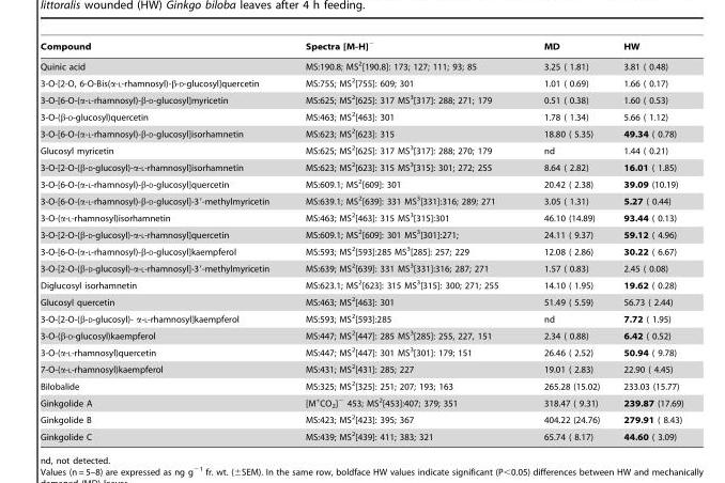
<table><thead><tr><td>Compound</td><td>Spectra [M-H]<sup>−</sup></td><td>MD</td><td>HW</td></tr></thead><tbody><tr><td>Quinic acid</td><td>MS:190.8; MS<sup>2</sup>[190.8]: 173; 127; 111; 93; 85</td><td>3.25 ( 1.81)</td><td>3.81 ( 0.48)</td></tr><tr><td>3-O-[2-O, 6-O-Bis(α-L-rhamnosyl)-β-D-glucosyl]quercetin</td><td>MS:755; MS<sup>2</sup>[755]: 609; 301</td><td>1.01 ( 0.69)</td><td>1.66 ( 0.17)</td></tr><tr><td>3-O-[6-O-(α-L-rhamnosyl)-β-D-glucosyl]myricetin</td><td>MS:625; MS<sup>2</sup>[625]: 317 MS<sup>3</sup>[317]: 288; 271; 179</td><td>0.51 ( 0.38)</td><td>1.60 ( 0.53)</td></tr><tr><td>3-O-(β-D-glucosyl)quercetin</td><td>MS:463; MS<sup>2</sup>[463]: 301</td><td>1.78 ( 1.34)</td><td>5.66 ( 1.12)</td></tr><tr><td>3-O-[6-O-(α-L-rhamnosyl)-β-D-glucosyl]isorhamnetin</td><td>MS:623; MS<sup>2</sup>[623]: 315</td><td>18.80 ( 5.35)</td><td>49.34 ( 0.78)</td></tr><tr><td>Glucosyl myricetin</td><td>MS:625; MS<sup>2</sup>[625]: 317 MS<sup>3</sup>[317]: 288; 270; 179</td><td>nd</td><td>1.44 ( 0.21)</td></tr><tr><td>3-O-[2-O-(β-D-glucosyl)-α-L-rhamnosyl]isorhamnetin</td><td>MS:623; MS<sup>2</sup>[623]: 315 MS<sup>3</sup>[315]: 301; 272; 255</td><td>8.64 ( 2.82)</td><td>16.01 ( 1.85)</td></tr><tr><td>3-O-[6-O-(α-L-rhamnosyl)-β-D-glucosyl]quercetin</td><td>MS:609.1; MS<sup>2</sup>[609]: 301</td><td>20.42 ( 2.38)</td><td>39.09 (10.19)</td></tr><tr><td>3-O-[6-O-(α-L-rhamnosyl)-β-D-glucosyl]-3′-methylmyricetin</td><td>MS:639.1; MS<sup>2</sup>[639]: 331 MS<sup>3</sup>[331]:316; 289; 271</td><td>3.05 ( 1.31)</td><td>5.27 ( 0.44)</td></tr><tr><td>3-O-(α-L-rhamnosyl)isorhamnetin</td><td>MS:463; MS<sup>2</sup>[463]: 315 MS<sup>3</sup>[315]:301</td><td>46.10 (14.89)</td><td>93.44 ( 0.13)</td></tr><tr><td>3-O-[2-O-(β-D-glucosyl)-α-L-rhamnosyl]quercetin</td><td>MS:609.1; MS<sup>2</sup>[609]: 301 MS<sup>3</sup>[301]:271;</td><td>24.11 ( 9.37)</td><td>59.12 ( 4.96)</td></tr><tr><td>3-O-[6-O-(α-L-rhamnosyl)-β-D-glucosyl]kaempferol</td><td>MS:593; MS<sup>2</sup>[593]:285 MS<sup>3</sup>[285]: 257; 229</td><td>12.08 ( 2.86)</td><td>30.22 ( 6.67)</td></tr><tr><td>3-O-[2-O-(β-D-glucosyl)-α-L-rhamnosyl]-3′-methylmyricetin</td><td>MS:639; MS<sup>2</sup>[639]: 331 MS<sup>3</sup>[331]:316; 287; 271</td><td>1.57 ( 0.83)</td><td>2.45 ( 0.08)</td></tr><tr><td>Diglucosyl isorhamnetin</td><td>MS:623.1; MS<sup>2</sup>[623]: 315 MS<sup>3</sup>[315]: 300; 271; 255</td><td>14.10 ( 1.95)</td><td>19.62 ( 0.28)</td></tr><tr><td>Glucosyl quercetin</td><td>MS:463; MS<sup>2</sup>[463]: 301</td><td>51.49 ( 5.59)</td><td>56.73 ( 2.44)</td></tr><tr><td>3-O-[2-O-(β-D-glucosyl)- α-L-rhamnosyl]kaempferol</td><td>MS:593; MS<sup>2</sup>[593]:285</td><td>nd</td><td>7.72 ( 1.95)</td></tr><tr><td>3-O-(β-D-glucosyl)kaempferol</td><td>MS:447; MS<sup>2</sup>[447]: 285 MS<sup>3</sup>[285]: 255, 227, 151</td><td>2.34 ( 0.88)</td><td>6.42 ( 0.52)</td></tr><tr><td>3-O-(α-L-rhamnosyl)quercetin</td><td>MS:447; MS<sup>2</sup>[447]: 301 MS<sup>3</sup>[301]: 179; 151</td><td>26.46 ( 2.52)</td><td>50.94 ( 9.78)</td></tr><tr><td>7-O-(α-L-rhamnosyl)kaempferol</td><td>MS:431; MS<sup>2</sup>[431]: 285; 227</td><td>19.01 ( 2.83)</td><td>22.90 ( 4.45)</td></tr><tr><td>Bilobalide</td><td>MS:325; MS<sup>2</sup>[325]: 251; 207; 193; 163</td><td>265.28 (15.02)</td><td>233.03 (15.77)</td></tr><tr><td>Ginkgolide A</td><td>[M<sup>+</sup>CO<sub>2</sub>]<sup>−</sup> 453; MS<sup>2</sup>[453]:407; 379; 351</td><td>318.47 ( 9.31)</td><td>239.87 (17.69)</td></tr><tr><td>Ginkgolide B</td><td>MS:423; MS<sup>2</sup>[423]: 395; 367</td><td>404.22 (24.76)</td><td>279.91 ( 8.43)</td></tr><tr><td>Ginkgolide C</td><td>MS:439; MS<sup>2</sup>[439]: 411; 383; 321</td><td>65.74 ( 8.17)</td><td>44.60 ( 3.09)</td></tr></tbody></table>